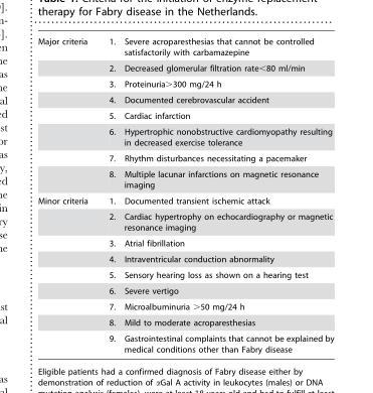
<table><tbody><tr><td rowspan="8">Major criteria</td><td>1. Severe acroparesthesias that cannot be controlled satisfactorily with carbamazepine</td></tr><tr><td>2. Decreased glomerular filtration rate&lt;80 ml/min</td></tr><tr><td>3. Proteinuria&gt;300 mg/24 h</td></tr><tr><td>4. Documented cerebrovascular accident</td></tr><tr><td>5. Cardiac infarction</td></tr><tr><td>6. Hypertrophic nonobstructive cardiomyopathy resulting in decreased exercise tolerance</td></tr><tr><td>7. Rhythm disturbances necessitating a pacemaker</td></tr><tr><td>8. Multiple lacunar infarctions on magnetic resonance imaging</td></tr><tr><td rowspan="9">Minor criteria</td><td>1. Documented transient ischemic attack</td></tr><tr><td>2. Cardiac hypertrophy on echocardiography or magnetic resonance imaging</td></tr><tr><td>3. Atrial fibrillation</td></tr><tr><td>4. Intraventricular conduction abnormality</td></tr><tr><td>5. Sensory hearing loss as shown on a hearing test</td></tr><tr><td>6. Severe vertigo</td></tr><tr><td>7. Microalbuminuria &gt;50 mg/24 h</td></tr><tr><td>8. Mild to moderate acroparesthesias</td></tr><tr><td>9. Gastrointestinal complaints that cannot be explained by medical conditions other than Fabry disease</td></tr></tbody></table>